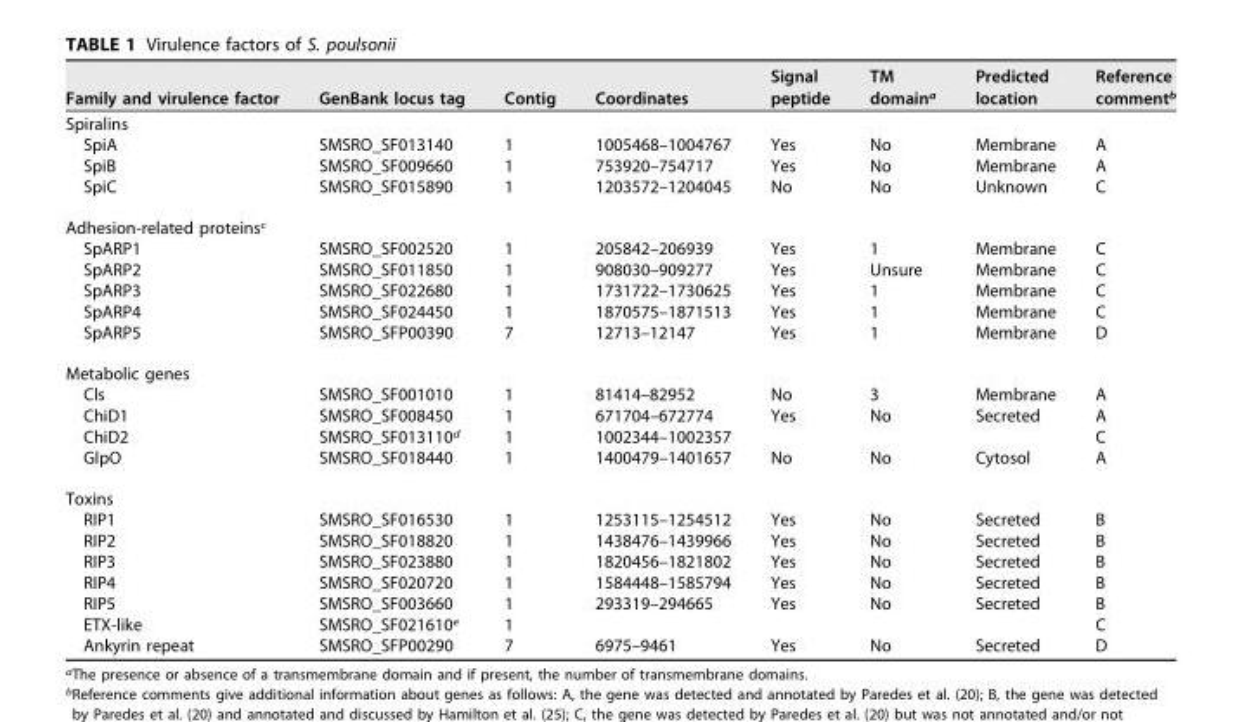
<table><thead><tr><td>Family and virulence factor</td><td>GenBank locus tag</td><td>Contig</td><td>Coordinates</td><td>Signal peptide</td><td>TM domain<sup>a</sup></td><td>Predicted location</td><td>Reference comment<sup>b</sup></td></tr></thead><tbody><tr><td colspan="8">Spiralins</td></tr><tr><td>SpiA</td><td>SMSRO_SF013140</td><td>1</td><td>1005468–1004767</td><td>Yes</td><td>No</td><td>Membrane</td><td>A</td></tr><tr><td>SpiB</td><td>SMSRO_SF009660</td><td>1</td><td>753920–754717</td><td>Yes</td><td>No</td><td>Membrane</td><td>A</td></tr><tr><td>SpiC</td><td>SMSRO_SF015890</td><td>1</td><td>1203572–1204045</td><td>No</td><td>No</td><td>Unknown</td><td>C</td></tr><tr><td colspan="8">Adhesion-related proteins<sup>c</sup></td></tr><tr><td>SpARP1</td><td>SMSRO_SF002520</td><td>1</td><td>205842–206939</td><td>Yes</td><td>1</td><td>Membrane</td><td>C</td></tr><tr><td>SpARP2</td><td>SMSRO_SF011850</td><td>1</td><td>908030–909277</td><td>Yes</td><td>Unsure</td><td>Membrane</td><td>C</td></tr><tr><td>SpARP3</td><td>SMSRO_SF022680</td><td>1</td><td>1731722–1730625</td><td>Yes</td><td>1</td><td>Membrane</td><td>C</td></tr><tr><td>SpARP4</td><td>SMSRO_SF024450</td><td>1</td><td>1870575–1871513</td><td>Yes</td><td>1</td><td>Membrane</td><td>C</td></tr><tr><td>SpARP5</td><td>SMSRO_SFP00390</td><td>7</td><td>12713–12147</td><td>Yes</td><td>1</td><td>Membrane</td><td>D</td></tr><tr><td colspan="8">Metabolic genes</td></tr><tr><td>Cls</td><td>SMSRO_SF001010</td><td>1</td><td>81414–82952</td><td>No</td><td>3</td><td>Membrane</td><td>A</td></tr><tr><td>ChiD1</td><td>SMSRO_SF008450</td><td>1</td><td>671704–672774</td><td>Yes</td><td>No</td><td>Secreted</td><td>A</td></tr><tr><td>ChiD2</td><td>SMSRO_SF013110<sup>d</sup></td><td>1</td><td>1002344–1002357</td><td></td><td></td><td></td><td>C</td></tr><tr><td>GlpO</td><td>SMSRO_SF018440</td><td>1</td><td>1400479–1401657</td><td>No</td><td>No</td><td>Cytosol</td><td>A</td></tr><tr><td colspan="8">Toxins</td></tr><tr><td>RIP1</td><td>SMSRO_SF016530</td><td>1</td><td>1253115–1254512</td><td>Yes</td><td>No</td><td>Secreted</td><td>B</td></tr><tr><td>RIP2</td><td>SMSRO_SF018820</td><td>1</td><td>1438476–1439966</td><td>Yes</td><td>No</td><td>Secreted</td><td>B</td></tr><tr><td>RIP3</td><td>SMSRO_SF023880</td><td>1</td><td>1820456–1821802</td><td>Yes</td><td>No</td><td>Secreted</td><td>B</td></tr><tr><td>RIP4</td><td>SMSRO_SF020720</td><td>1</td><td>1584448–1585794</td><td>Yes</td><td>No</td><td>Secreted</td><td>B</td></tr><tr><td>RIP5</td><td>SMSRO_SF003660</td><td>1</td><td>293319–294665</td><td>Yes</td><td>No</td><td>Secreted</td><td>B</td></tr><tr><td>ETX-like</td><td>SMSRO_SF021610<sup>e</sup></td><td>1</td><td></td><td></td><td></td><td></td><td>C</td></tr><tr><td>Ankyrin repeat</td><td>SMSRO_SFP00290</td><td>7</td><td>6975–9461</td><td>Yes</td><td>No</td><td>Secreted</td><td>D</td></tr></tbody></table>